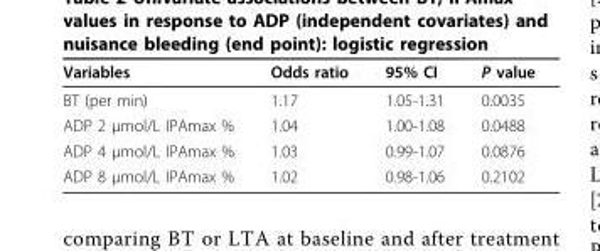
<table><thead><tr><td>Variables</td><td>Odds ratio</td><td>95% CI</td><td>P value</td></tr></thead><tbody><tr><td>BT (per min)</td><td>1.17</td><td>1.05-1.31</td><td>0.0035</td></tr><tr><td>ADP 2 μmol/L IPAmax %</td><td>1.04</td><td>1.00-1.08</td><td>0.0488</td></tr><tr><td>ADP 4 μmol/L IPAmax %</td><td>1.03</td><td>0.99-1.07</td><td>0.0876</td></tr><tr><td>ADP 8 μmol/L IPAmax %</td><td>1.02</td><td>0.98-1.06</td><td>0.2102</td></tr></tbody></table>